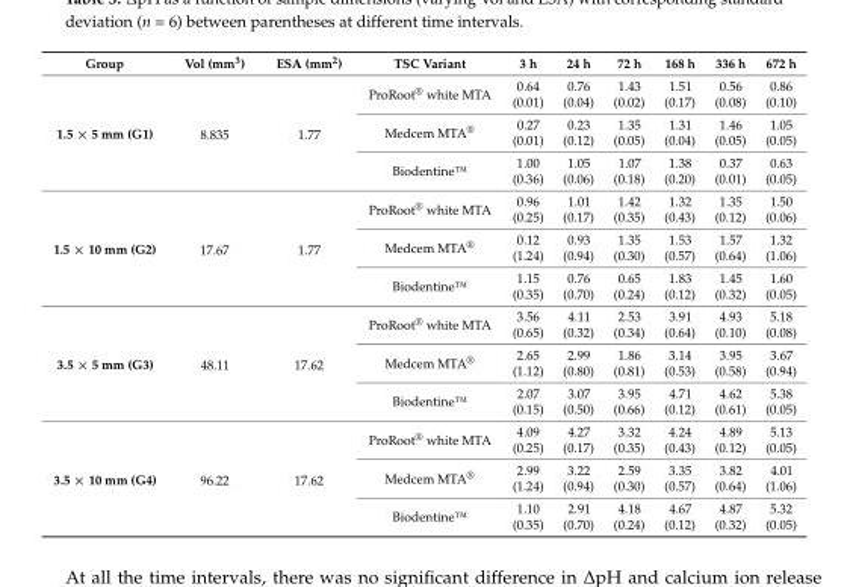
<table><thead><tr><td>Group</td><td>Vol (mm<sup>3</sup>)</td><td>ESA (mm<sup>2</sup>)</td><td>TSC Variant</td><td>3 h</td><td>24 h</td><td>72 h</td><td>168 h</td><td>336 h</td><td>672 h</td></tr></thead><tbody><tr><td rowspan="3">1.5 × 5 mm (G1)</td><td rowspan="3">8.835</td><td rowspan="3">1.77</td><td>ProRoot<sup>®</sup> white MTA</td><td>0.64 (0.01)</td><td>0.76 (0.04)</td><td>1.43 (0.02)</td><td>1.51 (0.17)</td><td>0.56 (0.08)</td><td>0.86 (0.10)</td></tr><tr><td>Medcem MTA<sup>®</sup></td><td>0.27 (0.01)</td><td>0.23 (0.12)</td><td>1.35 (0.05)</td><td>1.31 (0.04)</td><td>1.46 (0.05)</td><td>1.05 (0.05)</td></tr><tr><td>Biodentine™</td><td>1.00 (0.36)</td><td>1.05 (0.06)</td><td>1.07 (0.18)</td><td>1.38 (0.20)</td><td>0.37 (0.01)</td><td>0.63 (0.05)</td></tr><tr><td rowspan="3">1.5 × 10 mm (G2)</td><td rowspan="3">17.67</td><td rowspan="3">1.77</td><td>ProRoot<sup>®</sup> white MTA</td><td>0.96 (0.25)</td><td>1.01 (0.17)</td><td>1.42 (0.35)</td><td>1.32 (0.43)</td><td>1.35 (0.12)</td><td>1.50 (0.06)</td></tr><tr><td>Medcem MTA<sup>®</sup></td><td>0.12 (1.24)</td><td>0.93 (0.94)</td><td>1.35 (0.30)</td><td>1.53 (0.57)</td><td>1.57 (0.64)</td><td>1.32 (1.06)</td></tr><tr><td>Biodentine™</td><td>1.15 (0.35)</td><td>0.76 (0.70)</td><td>0.65 (0.24)</td><td>1.83 (0.12)</td><td>1.45 (0.32)</td><td>1.60 (0.05)</td></tr><tr><td rowspan="3">3.5 × 5 mm (G3)</td><td rowspan="3">48.11</td><td rowspan="3">17.62</td><td>ProRoot<sup>®</sup> white MTA</td><td>3.56 (0.65)</td><td>4.11 (0.32)</td><td>2.53 (0.34)</td><td>3.91 (0.64)</td><td>4.93 (0.10)</td><td>5.18 (0.08)</td></tr><tr><td>Medcem MTA<sup>®</sup></td><td>2.65 (1.12)</td><td>2.99 (0.80)</td><td>1.86 (0.81)</td><td>3.14 (0.53)</td><td>3.95 (0.58)</td><td>3.67 (0.94)</td></tr><tr><td>Biodentine™</td><td>2.07 (0.15)</td><td>3.07 (0.50)</td><td>3.95 (0.66)</td><td>4.71 (0.12)</td><td>4.62 (0.61)</td><td>5.38 (0.05)</td></tr><tr><td rowspan="3">3.5 × 10 mm (G4)</td><td rowspan="3">96.22</td><td rowspan="3">17.62</td><td>ProRoot<sup>®</sup> white MTA</td><td>4.09 (0.25)</td><td>4.27 (0.17)</td><td>3.32 (0.35)</td><td>4.24 (0.43)</td><td>4.89 (0.12)</td><td>5.13 (0.05)</td></tr><tr><td>Medcem MTA<sup>®</sup></td><td>2.99 (1.24)</td><td>3.22 (0.94)</td><td>2.59 (0.30)</td><td>3.35 (0.57)</td><td>3.82 (0.64)</td><td>4.01 (1.06)</td></tr><tr><td>Biodentine™</td><td>1.10 (0.35)</td><td>2.91 (0.70)</td><td>4.18 (0.24)</td><td>4.67 (0.12)</td><td>4.87 (0.32)</td><td>5.32 (0.05)</td></tr></tbody></table>